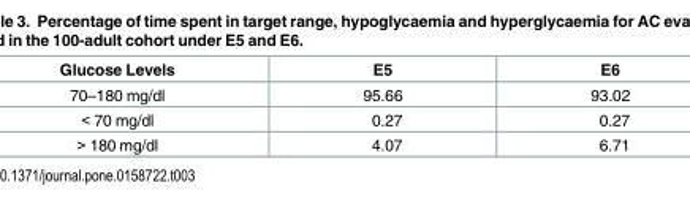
<table><thead><tr><td>Glucose Levels</td><td>E5</td><td>E6</td></tr></thead><tbody><tr><td>70–180 mg/dl</td><td>95.66</td><td>93.02</td></tr><tr><td>&lt; 70 mg/dl</td><td>0.27</td><td>0.27</td></tr><tr><td>&gt; 180 mg/dl</td><td>4.07</td><td>6.71</td></tr></tbody></table>